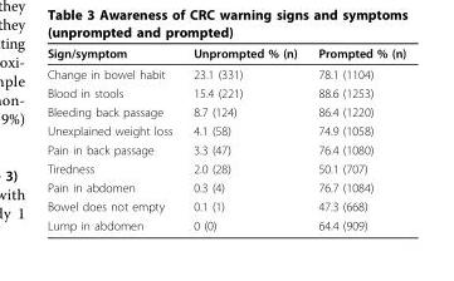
<table><thead><tr><td>Sign/symptom</td><td>Unprompted % (n)</td><td>Prompted % (n)</td></tr></thead><tbody><tr><td>Change in bowel habit</td><td>23.1 (331)</td><td>78.1 (1104)</td></tr><tr><td>Blood in stools</td><td>15.4 (221)</td><td>88.6 (1253)</td></tr><tr><td>Bleeding back passage</td><td>8.7 (124)</td><td>86.4 (1220)</td></tr><tr><td>Unexplained weight loss</td><td>4.1 (58)</td><td>74.9 (1058)</td></tr><tr><td>Pain in back passage</td><td>3.3 (47)</td><td>76.4 (1080)</td></tr><tr><td>Tiredness</td><td>2.0 (28)</td><td>50.1 (707)</td></tr><tr><td>Pain in abdomen</td><td>0.3 (4)</td><td>76.7 (1084)</td></tr><tr><td>Bowel does not empty</td><td>0.1 (1)</td><td>47.3 (668)</td></tr><tr><td>Lump in abdomen</td><td>0 (0)</td><td>64.4 (909)</td></tr></tbody></table>